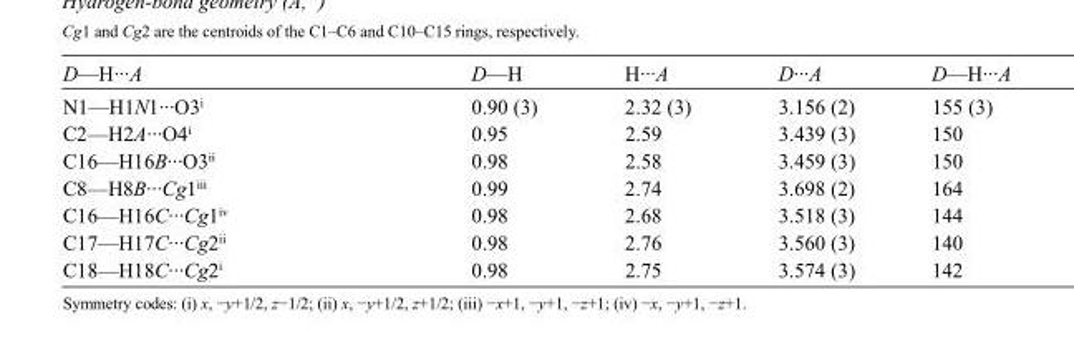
<table><tbody><tr><td>D—H···A</td><td>D—H</td><td>H···A</td><td>D···A</td><td>D—H···A</td></tr><tr><td>N1—H1N1···O3<sup>i</sup></td><td>0.90 (3)</td><td>2.32 (3)</td><td>3.156 (2)</td><td>155 (3)</td></tr><tr><td>C2—H2A···O4<sup>i</sup></td><td>0.95</td><td>2.59</td><td>3.439 (3)</td><td>150</td></tr><tr><td>C16—H16B···O3<sup>ii</sup></td><td>0.98</td><td>2.58</td><td>3.459 (3)</td><td>150</td></tr><tr><td>C8—H8B···Cg1<sup>iii</sup></td><td>0.99</td><td>2.74</td><td>3.698 (2)</td><td>164</td></tr><tr><td>C16—H16C···Cg1<sup>iv</sup></td><td>0.98</td><td>2.68</td><td>3.518 (3)</td><td>144</td></tr><tr><td>C17—H17C···Cg2<sup>ii</sup></td><td>0.98</td><td>2.76</td><td>3.560 (3)</td><td>140</td></tr><tr><td>C18—H18C···Cg2<sup>i</sup></td><td>0.98</td><td>2.75</td><td>3.574 (3)</td><td>142</td></tr></tbody></table>